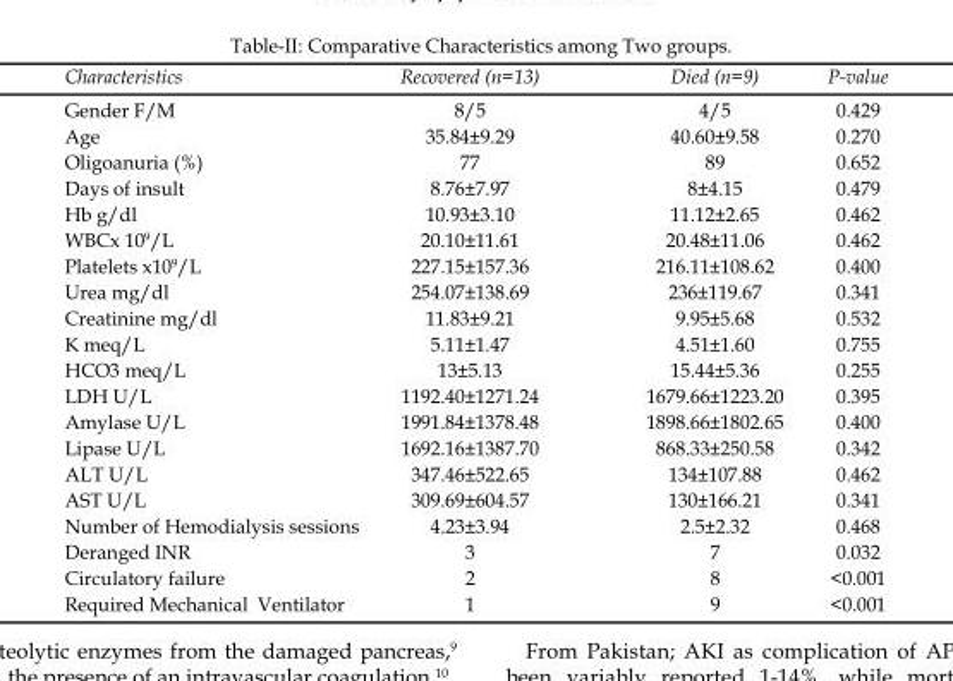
<table><thead><tr><td>Characteristics</td><td>Recovered (n=13)</td><td>Died (n=9)</td><td>P-value</td></tr></thead><tbody><tr><td>Gender F/M</td><td>8/5</td><td>4/5</td><td>0.429</td></tr><tr><td>Age</td><td>35.84±9.29</td><td>40.60±9.58</td><td>0.270</td></tr><tr><td>Oligoanuria (%)</td><td>77</td><td>89</td><td>0.652</td></tr><tr><td>Days of insult</td><td>8.76±7.97</td><td>8±4.15</td><td>0.479</td></tr><tr><td>Hb g/dl</td><td>10.93±3.10</td><td>11.12±2.65</td><td>0.462</td></tr><tr><td>WBCx 10<sup>9</sup>/L</td><td>20.10±11.61</td><td>20.48±11.06</td><td>0.462</td></tr><tr><td>Platelets x10<sup>9</sup>/L</td><td>227.15±157.36</td><td>216.11±108.62</td><td>0.400</td></tr><tr><td>Urea mg/dl</td><td>254.07±138.69</td><td>236±119.67</td><td>0.341</td></tr><tr><td>Creatinine mg/dl</td><td>11.83±9.21</td><td>9.95±5.68</td><td>0.532</td></tr><tr><td>K meq/L</td><td>5.11±1.47</td><td>4.51±1.60</td><td>0.755</td></tr><tr><td>HCO3 meq/L</td><td>13±5.13</td><td>15.44±5.36</td><td>0.255</td></tr><tr><td>LDH U/L</td><td>1192.40±1271.24</td><td>1679.66±1223.20</td><td>0.395</td></tr><tr><td>Amylase U/L</td><td>1991.84±1378.48</td><td>1898.66±1802.65</td><td>0.400</td></tr><tr><td>Lipase U/L</td><td>1692.16±1387.70</td><td>868.33±250.58</td><td>0.342</td></tr><tr><td>ALT U/L</td><td>347.46±522.65</td><td>134±107.88</td><td>0.462</td></tr><tr><td>AST U/L</td><td>309.69±604.57</td><td>130±166.21</td><td>0.341</td></tr><tr><td>Number of Hemodialysis sessions</td><td>4.23±3.94</td><td>2.5±2.32</td><td>0.468</td></tr><tr><td>Deranged INR</td><td>3</td><td>7</td><td>0.032</td></tr><tr><td>Circulatory failure</td><td>2</td><td>8</td><td>&lt;0.001</td></tr><tr><td>Required Mechanical Ventilator</td><td>1</td><td>9</td><td>&lt;0.001</td></tr></tbody></table>